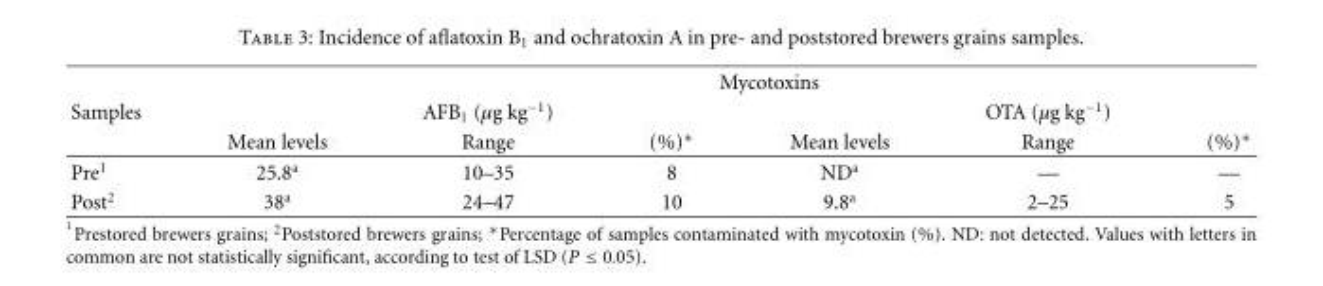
<table><thead><tr><td rowspan="3">Samples</td><td rowspan="3">Mean levels</td><td rowspan="3">AFB<sub>1</sub> (µg kg<sup>−1</sup>) Range</td><td colspan="2">Mycotoxins</td><td rowspan="3">OTA (µg kg<sup>−1</sup>) Range</td><td rowspan="3">(%)∗</td></tr><tr><td rowspan="2">(%)∗</td><td rowspan="2">Mean levels</td></tr><tr></tr></thead><tbody><tr><td>Pre<sup>1</sup></td><td>25.8<sup>a</sup></td><td>10–35</td><td>8</td><td>ND<sup>a</sup></td><td>—</td><td>—</td></tr><tr><td>Post<sup>2</sup></td><td>38<sup>a</sup></td><td>24–47</td><td>10</td><td>9.8<sup>a</sup></td><td>2–25</td><td>5</td></tr></tbody></table>